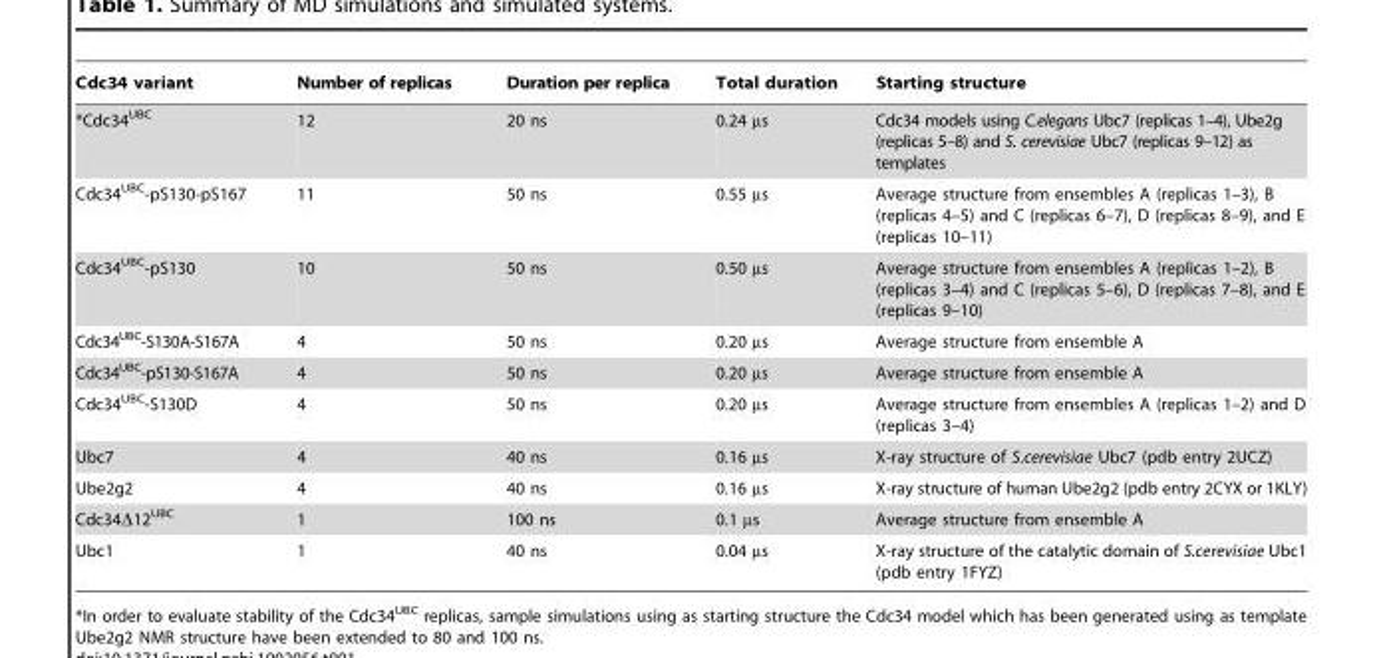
<table><thead><tr><td>Cdc34 variant</td><td>Number of replicas</td><td>Duration per replica</td><td>Total duration</td><td>Starting structure</td></tr></thead><tbody><tr><td>*Cdc34<sup>UBC</sup></td><td>12</td><td>20 ns</td><td>0.24 µs</td><td>Cdc34 models using C.elegans Ubc7 (replicas 1–4), Ube2g (replicas 5–8) and S. cerevisiae Ubc7 (replicas 9–12) as templates</td></tr><tr><td>Cdc34<sup>UBC</sup>-pS130-pS167</td><td>11</td><td>50 ns</td><td>0.55 µs</td><td>Average structure from ensembles A (replicas 1–3), B (replicas 4–5) and C (replicas 6–7), D (replicas 8–9), and E (replicas 10–11)</td></tr><tr><td>Cdc34<sup>UBC</sup>-pS130</td><td>10</td><td>50 ns</td><td>0.50 µs</td><td>Average structure from ensembles A (replicas 1–2), B (replicas 3–4) and C (replicas 5–6), D (replicas 7–8), and E (replicas 9–10)</td></tr><tr><td>Cdc34<sup>UBC</sup>-S130A-S167A</td><td>4</td><td>50 ns</td><td>0.20 µs</td><td>Average structure from ensemble A</td></tr><tr><td>Cdc34<sup>UBC</sup>-pS130-S167A</td><td>4</td><td>50 ns</td><td>0.20 µs</td><td>Average structure from ensemble A</td></tr><tr><td>Cdc34<sup>UBC</sup>-S130D</td><td>4</td><td>50 ns</td><td>0.20 µs</td><td>Average structure from ensembles A (replicas 1–2) and D (replicas 3–4)</td></tr><tr><td>Ubc7</td><td>4</td><td>40 ns</td><td>0.16 µs</td><td>X-ray structure of S.cerevisiae Ubc7 (pdb entry 2UCZ)</td></tr><tr><td>Ube2g2</td><td>4</td><td>40 ns</td><td>0.16 µs</td><td>X-ray structure of human Ube2g2 (pdb entry 2CYX or 1KLY)</td></tr><tr><td>Cdc34Δ12<sup>UBC</sup></td><td>1</td><td>100 ns</td><td>0.1 µs</td><td>Average structure from ensemble A</td></tr><tr><td>Ubc1</td><td>1</td><td>40 ns</td><td>0.04 µs</td><td>X-ray structure of the catalytic domain of S.cerevisiae Ubc1 (pdb entry 1FYZ)</td></tr></tbody></table>